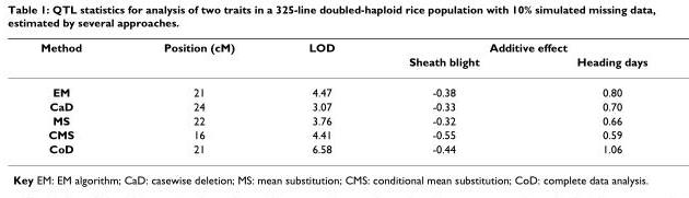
<table><thead><tr><td rowspan="2">Method</td><td rowspan="2">Position (cM)</td><td rowspan="2">LOD</td><td colspan="2">Additive effect</td></tr><tr><td>Sheath blight</td><td>Heading days</td></tr></thead><tbody><tr><td>EM</td><td>21</td><td>4.47</td><td>-0.38</td><td>0.80</td></tr><tr><td>CaD</td><td>24</td><td>3.07</td><td>-0.33</td><td>0.70</td></tr><tr><td>MS</td><td>22</td><td>3.76</td><td>-0.32</td><td>0.66</td></tr><tr><td>CMS</td><td>16</td><td>4.41</td><td>-0.55</td><td>0.59</td></tr><tr><td>CoD</td><td>21</td><td>6.58</td><td>-0.44</td><td>1.06</td></tr></tbody></table>